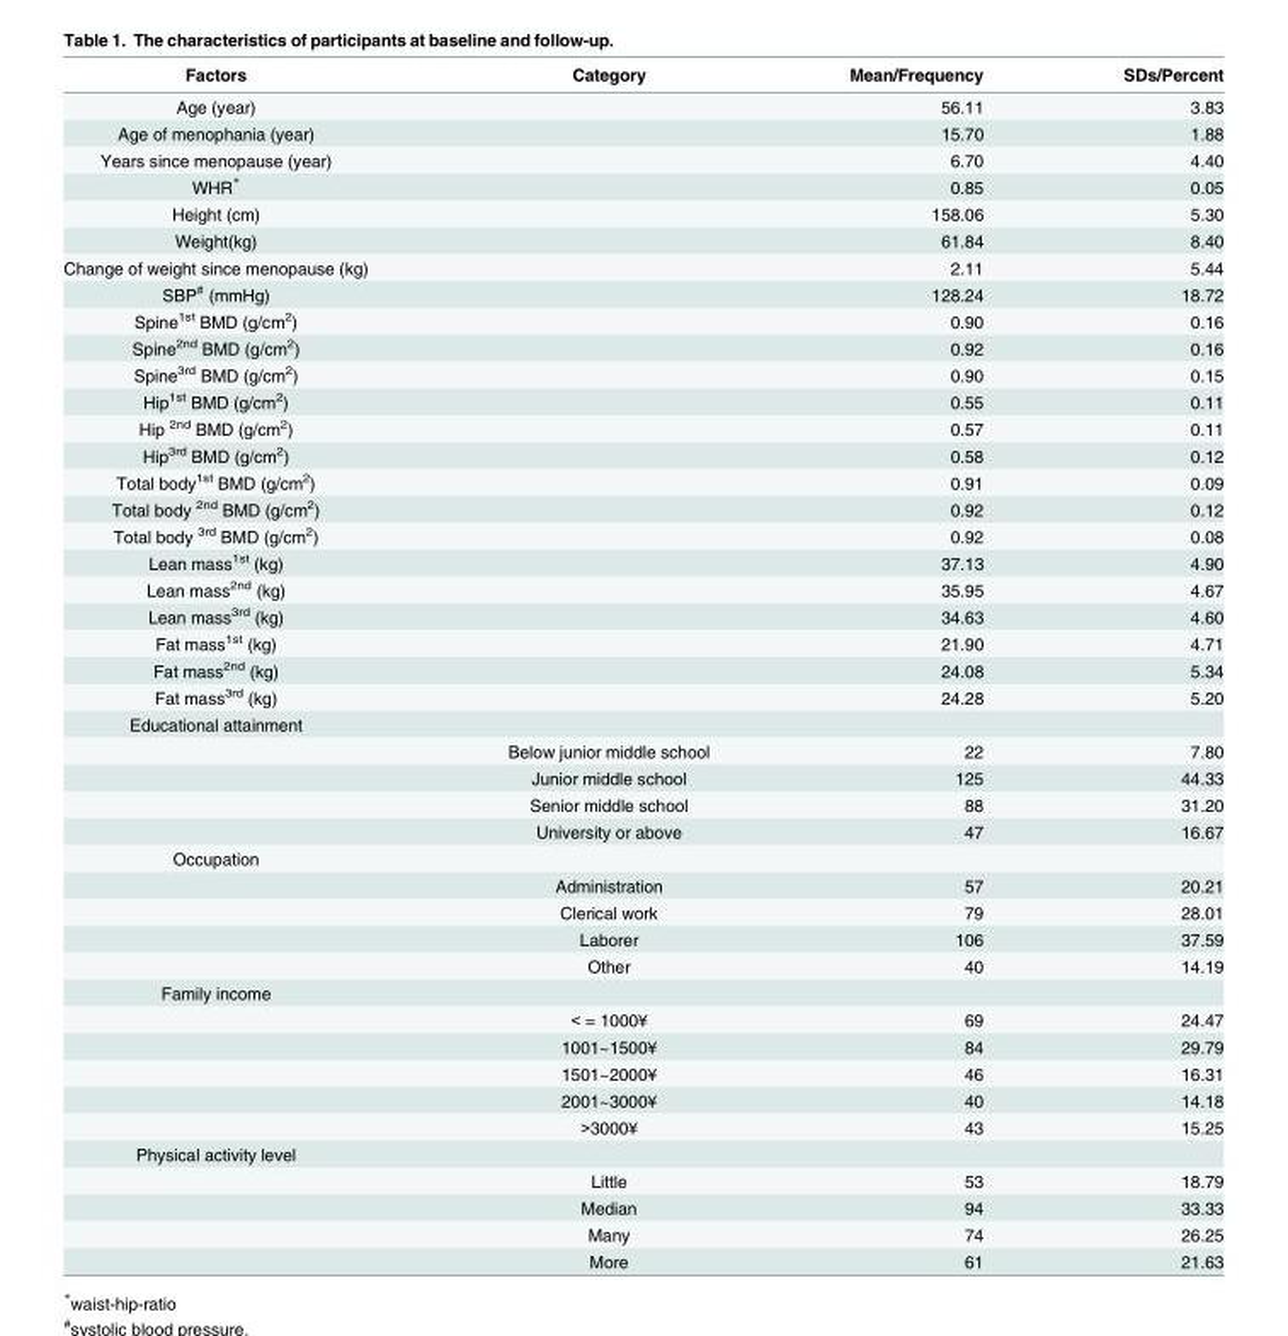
<table><thead><tr><td>Factors</td><td>Category</td><td>Mean/Frequency</td><td>SDs/Percent</td></tr></thead><tbody><tr><td>Age (year)</td><td></td><td>56.11</td><td>3.83</td></tr><tr><td>Age of menophania (year)</td><td></td><td>15.70</td><td>1.88</td></tr><tr><td>Years since menopause (year)</td><td></td><td>6.70</td><td>4.40</td></tr><tr><td>WHR*</td><td></td><td>0.85</td><td>0.05</td></tr><tr><td>Height (cm)</td><td></td><td>158.06</td><td>5.30</td></tr><tr><td>Weight(kg)</td><td></td><td>61.84</td><td>8.40</td></tr><tr><td>Change of weight since menopause (kg)</td><td></td><td>2.11</td><td>5.44</td></tr><tr><td>SBP<sup>#</sup> (mmHg)</td><td></td><td>128.24</td><td>18.72</td></tr><tr><td>Spine<sup>1st</sup> BMD (g/cm<sup>2</sup>)</td><td></td><td>0.90</td><td>0.16</td></tr><tr><td>Spine<sup>2nd</sup> BMD (g/cm<sup>2</sup>)</td><td></td><td>0.92</td><td>0.16</td></tr><tr><td>Spine<sup>3rd</sup> BMD (g/cm<sup>2</sup>)</td><td></td><td>0.90</td><td>0.15</td></tr><tr><td>Hip<sup>1st</sup> BMD (g/cm<sup>2</sup>)</td><td></td><td>0.55</td><td>0.11</td></tr><tr><td>Hip <sup>2nd</sup> BMD (g/cm<sup>2</sup>)</td><td></td><td>0.57</td><td>0.11</td></tr><tr><td>Hip<sup>3rd</sup> BMD (g/cm<sup>2</sup>)</td><td></td><td>0.58</td><td>0.12</td></tr><tr><td>Total body<sup>1st</sup> BMD (g/cm<sup>2</sup>)</td><td></td><td>0.91</td><td>0.09</td></tr><tr><td>Total body <sup>2nd</sup> BMD (g/cm<sup>2</sup>)</td><td></td><td>0.92</td><td>0.12</td></tr><tr><td>Total body <sup>3rd</sup> BMD (g/cm<sup>2</sup>)</td><td></td><td>0.92</td><td>0.08</td></tr><tr><td>Lean mass<sup>1st</sup> (kg)</td><td></td><td>37.13</td><td>4.90</td></tr><tr><td>Lean mass<sup>2nd</sup> (kg)</td><td></td><td>35.95</td><td>4.67</td></tr><tr><td>Lean mass<sup>3rd</sup> (kg)</td><td></td><td>34.63</td><td>4.60</td></tr><tr><td>Fat mass<sup>1st</sup> (kg)</td><td></td><td>21.90</td><td>4.71</td></tr><tr><td>Fat mass<sup>2nd</sup> (kg)</td><td></td><td>24.08</td><td>5.34</td></tr><tr><td>Fat mass<sup>3rd</sup> (kg)</td><td></td><td>24.28</td><td>5.20</td></tr><tr><td colspan="4">Educational attainment</td></tr><tr><td></td><td>Below junior middle school</td><td>22</td><td>7.80</td></tr><tr><td></td><td>Junior middle school</td><td>125</td><td>44.33</td></tr><tr><td></td><td>Senior middle school</td><td>88</td><td>31.20</td></tr><tr><td></td><td>University or above</td><td>47</td><td>16.67</td></tr><tr><td colspan="4">Occupation</td></tr><tr><td></td><td>Administration</td><td>57</td><td>20.21</td></tr><tr><td></td><td>Clerical work</td><td>79</td><td>28.01</td></tr><tr><td></td><td>Laborer</td><td>106</td><td>37.59</td></tr><tr><td></td><td>Other</td><td>40</td><td>14.19</td></tr><tr><td colspan="4">Family income</td></tr><tr><td></td><td>&lt; = 1000¥</td><td>69</td><td>24.47</td></tr><tr><td></td><td>1001~1500¥</td><td>84</td><td>29.79</td></tr><tr><td></td><td>1501~2000¥</td><td>46</td><td>16.31</td></tr><tr><td></td><td>2001~3000¥</td><td>40</td><td>14.18</td></tr><tr><td></td><td>&gt;3000¥</td><td>43</td><td>15.25</td></tr><tr><td colspan="4">Physical activity level</td></tr><tr><td></td><td>Little</td><td>53</td><td>18.79</td></tr><tr><td></td><td>Median</td><td>94</td><td>33.33</td></tr><tr><td></td><td>Many</td><td>74</td><td>26.25</td></tr><tr><td></td><td>More</td><td>61</td><td>21.63</td></tr></tbody></table>